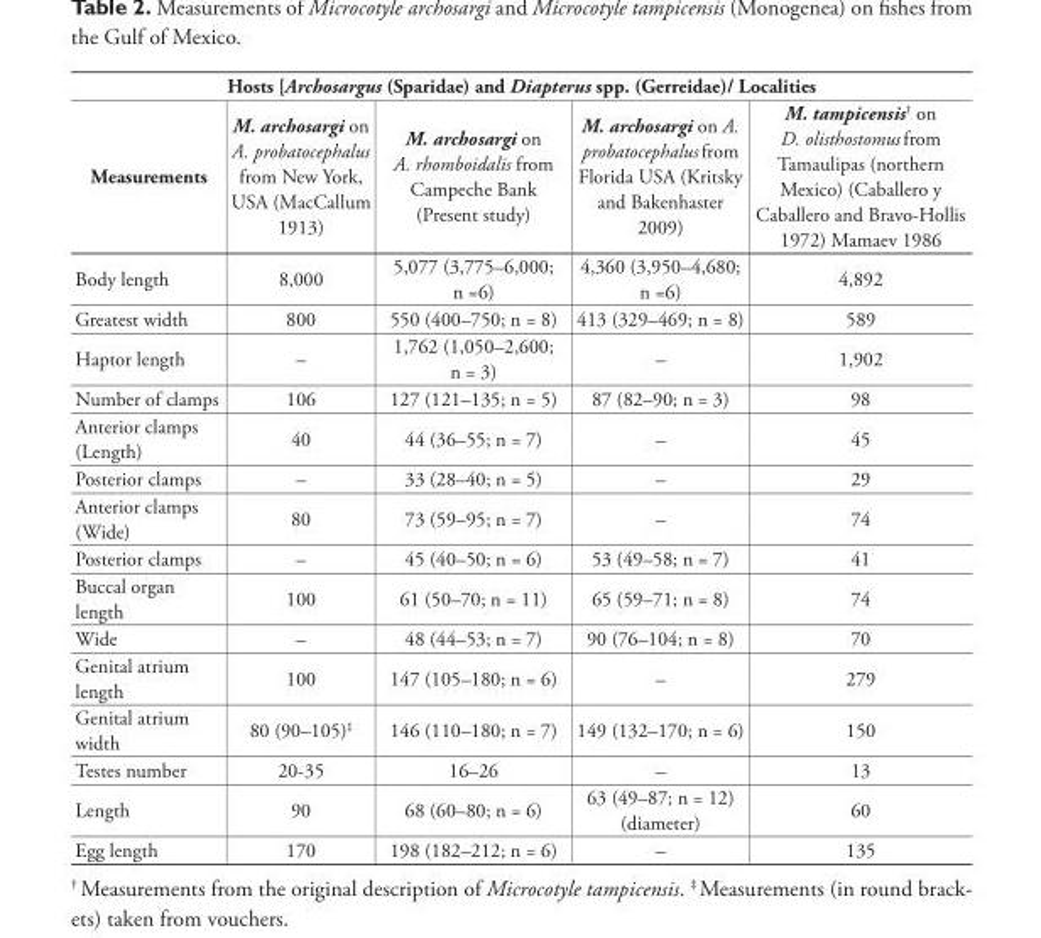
<table><thead><tr><td colspan="5">Hosts [Archosargus (Sparidae) and Diapterus spp. (Gerreidae)/ Localities</td></tr><tr><td>Measurements</td><td>M. archosargi on A. probatocephalus from New York, USA (MacCallum 1913)</td><td>M. archosargi on A. rhomboidalis from Campeche Bank (Present study)</td><td>M. archosargi on A. probatocephalus from Florida USA (Kritsky and Bakenhaster 2009)</td><td>M. tampicensis<sup>†</sup> on D. olisthostomus from Tamaulipas (northern Mexico) (Caballero y Caballero and Bravo-Hollis 1972) Mamaev 1986</td></tr></thead><tbody><tr><td>Body length</td><td>8,000</td><td>5,077 (3,775–6,000; n =6)</td><td>4,360 (3,950–4,680; n =6)</td><td>4,892</td></tr><tr><td>Greatest width</td><td>800</td><td>550 (400–750; n = 8)</td><td>413 (329–469; n = 8)</td><td>589</td></tr><tr><td>Haptor length</td><td>–</td><td>1,762 (1,050–2,600; n = 3)</td><td>–</td><td>1,902</td></tr><tr><td>Number of clamps</td><td>106</td><td>127 (121–135; n = 5)</td><td>87 (82–90; n = 3)</td><td>98</td></tr><tr><td>Anterior clamps (Length)</td><td>40</td><td>44 (36–55; n = 7)</td><td>–</td><td>45</td></tr><tr><td>Posterior clamps</td><td>–</td><td>33 (28–40; n = 5)</td><td>–</td><td>29</td></tr><tr><td>Anterior clamps (Wide)</td><td>80</td><td>73 (59–95; n = 7)</td><td>–</td><td>74</td></tr><tr><td>Posterior clamps</td><td>–</td><td>45 (40–50; n = 6)</td><td>53 (49–58; n = 7)</td><td>41</td></tr><tr><td>Buccal organ length</td><td>100</td><td>61 (50–70; n = 11)</td><td>65 (59–71; n = 8)</td><td>74</td></tr><tr><td>Wide</td><td>–</td><td>48 (44–53; n = 7)</td><td>90 (76–104; n = 8)</td><td>70</td></tr><tr><td>Genital atrium length</td><td>100</td><td>147 (105–180; n = 6)</td><td>–</td><td>279</td></tr><tr><td>Genital atrium width</td><td>80 (90–105)<sup>‡</sup></td><td>146 (110–180; n = 7)</td><td>149 (132–170; n = 6)</td><td>150</td></tr><tr><td>Testes number</td><td>20-35</td><td>16–26</td><td>–</td><td>13</td></tr><tr><td>Length</td><td>90</td><td>68 (60–80; n = 6)</td><td>63 (49–87; n = 12) (diameter)</td><td>60</td></tr><tr><td>Egg length</td><td>170</td><td>198 (182–212; n = 6)</td><td>–</td><td>135</td></tr></tbody></table>